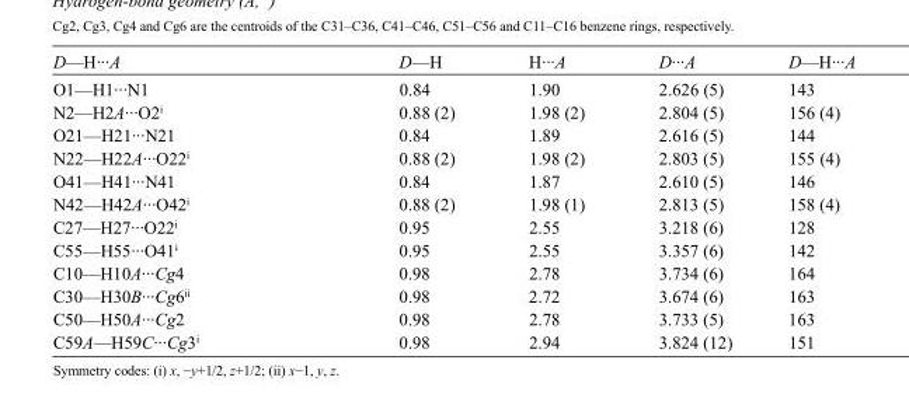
<table><tbody><tr><td>D—H···A</td><td>D—H</td><td>H···A</td><td>D···A</td><td>D—H···A</td></tr><tr><td>O1—H1···N1</td><td>0.84</td><td>1.90</td><td>2.626 (5)</td><td>143</td></tr><tr><td>N2—H2A···O2<sup>i</sup></td><td>0.88 (2)</td><td>1.98 (2)</td><td>2.804 (5)</td><td>156 (4)</td></tr><tr><td>O21—H21···N21</td><td>0.84</td><td>1.89</td><td>2.616 (5)</td><td>144</td></tr><tr><td>N22—H22A···O22<sup>i</sup></td><td>0.88 (2)</td><td>1.98 (2)</td><td>2.803 (5)</td><td>155 (4)</td></tr><tr><td>O41—H41···N41</td><td>0.84</td><td>1.87</td><td>2.610 (5)</td><td>146</td></tr><tr><td>N42—H42A···O42<sup>i</sup></td><td>0.88 (2)</td><td>1.98 (1)</td><td>2.813 (5)</td><td>158 (4)</td></tr><tr><td>C27—H27···O22<sup>i</sup></td><td>0.95</td><td>2.55</td><td>3.218 (6)</td><td>128</td></tr><tr><td>C55—H55···O41<sup>i</sup></td><td>0.95</td><td>2.55</td><td>3.357 (6)</td><td>142</td></tr><tr><td>C10—H10A···Cg4</td><td>0.98</td><td>2.78</td><td>3.734 (6)</td><td>164</td></tr><tr><td>C30—H30B···Cg6<sup>ii</sup></td><td>0.98</td><td>2.72</td><td>3.674 (6)</td><td>163</td></tr><tr><td>C50—H50A···Cg2</td><td>0.98</td><td>2.78</td><td>3.733 (5)</td><td>163</td></tr><tr><td>C59A—H59C···Cg3<sup>i</sup></td><td>0.98</td><td>2.94</td><td>3.824 (12)</td><td>151</td></tr></tbody></table>